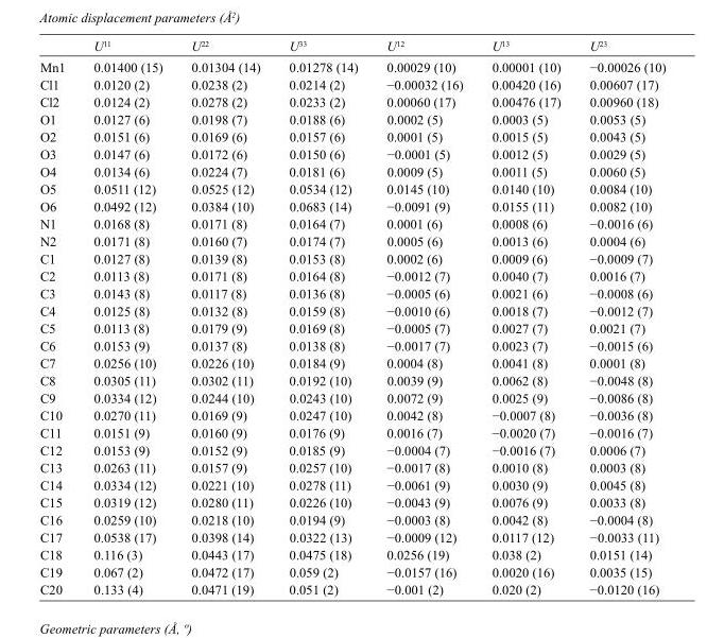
<table><thead><tr><td></td><td>U<sup>11</sup></td><td>U<sup>22</sup></td><td>U<sup>33</sup></td><td>U<sup>12</sup></td><td>U<sup>13</sup></td><td>U<sup>23</sup></td></tr></thead><tbody><tr><td>Mn1</td><td>0.01400 (15)</td><td>0.01304 (14)</td><td>0.01278 (14)</td><td>0.00029 (10)</td><td>0.00001 (10)</td><td>−0.00026 (10)</td></tr><tr><td>Cl1</td><td>0.0120 (2)</td><td>0.0238 (2)</td><td>0.0214 (2)</td><td>−0.00032 (16)</td><td>0.00420 (16)</td><td>0.00607 (17)</td></tr><tr><td>Cl2</td><td>0.0124 (2)</td><td>0.0278 (2)</td><td>0.0233 (2)</td><td>0.00060 (17)</td><td>0.00476 (17)</td><td>0.00960 (18)</td></tr><tr><td>O1</td><td>0.0127 (6)</td><td>0.0198 (7)</td><td>0.0188 (6)</td><td>0.0002 (5)</td><td>0.0003 (5)</td><td>0.0053 (5)</td></tr><tr><td>O2</td><td>0.0151 (6)</td><td>0.0169 (6)</td><td>0.0157 (6)</td><td>0.0001 (5)</td><td>0.0015 (5)</td><td>0.0043 (5)</td></tr><tr><td>O3</td><td>0.0147 (6)</td><td>0.0172 (6)</td><td>0.0150 (6)</td><td>−0.0001 (5)</td><td>0.0012 (5)</td><td>0.0029 (5)</td></tr><tr><td>O4</td><td>0.0134 (6)</td><td>0.0224 (7)</td><td>0.0181 (6)</td><td>0.0009 (5)</td><td>0.0011 (5)</td><td>0.0060 (5)</td></tr><tr><td>O5</td><td>0.0511 (12)</td><td>0.0525 (12)</td><td>0.0534 (12)</td><td>0.0145 (10)</td><td>0.0140 (10)</td><td>0.0084 (10)</td></tr><tr><td>O6</td><td>0.0492 (12)</td><td>0.0384 (10)</td><td>0.0683 (14)</td><td>−0.0091 (9)</td><td>0.0155 (11)</td><td>0.0082 (10)</td></tr><tr><td>N1</td><td>0.0168 (8)</td><td>0.0171 (8)</td><td>0.0164 (7)</td><td>0.0001 (6)</td><td>0.0008 (6)</td><td>−0.0016 (6)</td></tr><tr><td>N2</td><td>0.0171 (8)</td><td>0.0160 (7)</td><td>0.0174 (7)</td><td>0.0005 (6)</td><td>0.0013 (6)</td><td>0.0004 (6)</td></tr><tr><td>C1</td><td>0.0127 (8)</td><td>0.0139 (8)</td><td>0.0153 (8)</td><td>0.0002 (6)</td><td>0.0009 (6)</td><td>−0.0009 (7)</td></tr><tr><td>C2</td><td>0.0113 (8)</td><td>0.0171 (8)</td><td>0.0164 (8)</td><td>−0.0012 (7)</td><td>0.0040 (7)</td><td>0.0016 (7)</td></tr><tr><td>C3</td><td>0.0143 (8)</td><td>0.0117 (8)</td><td>0.0136 (8)</td><td>−0.0005 (6)</td><td>0.0021 (6)</td><td>−0.0008 (6)</td></tr><tr><td>C4</td><td>0.0125 (8)</td><td>0.0132 (8)</td><td>0.0159 (8)</td><td>−0.0010 (6)</td><td>0.0018 (7)</td><td>−0.0012 (7)</td></tr><tr><td>C5</td><td>0.0113 (8)</td><td>0.0179 (9)</td><td>0.0169 (8)</td><td>−0.0005 (7)</td><td>0.0027 (7)</td><td>0.0021 (7)</td></tr><tr><td>C6</td><td>0.0153 (9)</td><td>0.0137 (8)</td><td>0.0138 (8)</td><td>−0.0017 (7)</td><td>0.0023 (7)</td><td>−0.0015 (6)</td></tr><tr><td>C7</td><td>0.0256 (10)</td><td>0.0226 (10)</td><td>0.0184 (9)</td><td>0.0004 (8)</td><td>0.0041 (8)</td><td>0.0001 (8)</td></tr><tr><td>C8</td><td>0.0305 (11)</td><td>0.0302 (11)</td><td>0.0192 (10)</td><td>0.0039 (9)</td><td>0.0062 (8)</td><td>−0.0048 (8)</td></tr><tr><td>C9</td><td>0.0334 (12)</td><td>0.0244 (10)</td><td>0.0243 (10)</td><td>0.0072 (9)</td><td>0.0025 (9)</td><td>−0.0086 (8)</td></tr><tr><td>C10</td><td>0.0270 (11)</td><td>0.0169 (9)</td><td>0.0247 (10)</td><td>0.0042 (8)</td><td>−0.0007 (8)</td><td>−0.0036 (8)</td></tr><tr><td>C11</td><td>0.0151 (9)</td><td>0.0160 (9)</td><td>0.0176 (9)</td><td>0.0016 (7)</td><td>−0.0020 (7)</td><td>−0.0016 (7)</td></tr><tr><td>C12</td><td>0.0153 (9)</td><td>0.0152 (9)</td><td>0.0185 (9)</td><td>−0.0004 (7)</td><td>−0.0016 (7)</td><td>0.0006 (7)</td></tr><tr><td>C13</td><td>0.0263 (11)</td><td>0.0157 (9)</td><td>0.0257 (10)</td><td>−0.0017 (8)</td><td>0.0010 (8)</td><td>0.0003 (8)</td></tr><tr><td>C14</td><td>0.0334 (12)</td><td>0.0221 (10)</td><td>0.0278 (11)</td><td>−0.0061 (9)</td><td>0.0030 (9)</td><td>0.0045 (8)</td></tr><tr><td>C15</td><td>0.0319 (12)</td><td>0.0280 (11)</td><td>0.0226 (10)</td><td>−0.0043 (9)</td><td>0.0076 (9)</td><td>0.0033 (8)</td></tr><tr><td>C16</td><td>0.0259 (10)</td><td>0.0218 (10)</td><td>0.0194 (9)</td><td>−0.0003 (8)</td><td>0.0042 (8)</td><td>−0.0004 (8)</td></tr><tr><td>C17</td><td>0.0538 (17)</td><td>0.0398 (14)</td><td>0.0322 (13)</td><td>−0.0009 (12)</td><td>0.0117 (12)</td><td>−0.0033 (11)</td></tr><tr><td>C18</td><td>0.116 (3)</td><td>0.0443 (17)</td><td>0.0475 (18)</td><td>0.0256 (19)</td><td>0.038 (2)</td><td>0.0151 (14)</td></tr><tr><td>C19</td><td>0.067 (2)</td><td>0.0472 (17)</td><td>0.059 (2)</td><td>−0.0157 (16)</td><td>0.0020 (16)</td><td>0.0035 (15)</td></tr><tr><td>C20</td><td>0.133 (4)</td><td>0.0471 (19)</td><td>0.051 (2)</td><td>−0.001 (2)</td><td>0.020 (2)</td><td>−0.0120 (16)</td></tr></tbody></table>